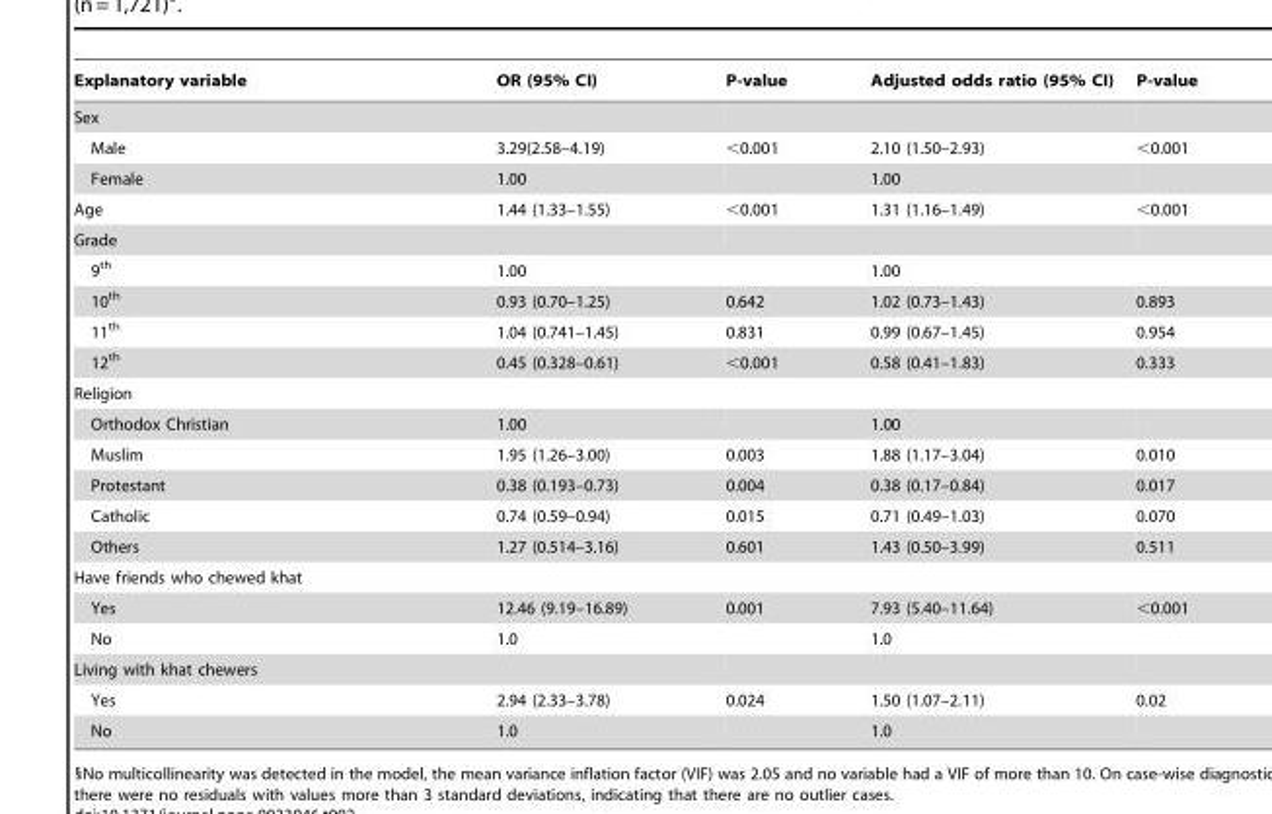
<table><thead><tr><td>Explanatory variable</td><td>OR (95% CI)</td><td>P-value</td><td>Adjusted odds ratio (95% CI)</td><td>P-value</td></tr></thead><tbody><tr><td colspan="5">Sex</td></tr><tr><td>Male</td><td>3.29(2.58–4.19)</td><td>&lt;0.001</td><td>2.10 (1.50–2.93)</td><td>&lt;0.001</td></tr><tr><td>Female</td><td>1.00</td><td></td><td>1.00</td><td></td></tr><tr><td>Age</td><td>1.44 (1.33–1.55)</td><td>&lt;0.001</td><td>1.31 (1.16–1.49)</td><td>&lt;0.001</td></tr><tr><td colspan="5">Grade</td></tr><tr><td>9<sup>th</sup></td><td>1.00</td><td></td><td>1.00</td><td></td></tr><tr><td>10<sup>th</sup></td><td>0.93 (0.70–1.25)</td><td>0.642</td><td>1.02 (0.73–1.43)</td><td>0.893</td></tr><tr><td>11<sup>th</sup></td><td>1.04 (0.741–1.45)</td><td>0.831</td><td>0.99 (0.67–1.45)</td><td>0.954</td></tr><tr><td>12<sup>th</sup></td><td>0.45 (0.328–0.61)</td><td>&lt;0.001</td><td>0.58 (0.41–1.83)</td><td>0.333</td></tr><tr><td colspan="5">Religion</td></tr><tr><td>Orthodox Christian</td><td>1.00</td><td></td><td>1.00</td><td></td></tr><tr><td>Muslim</td><td>1.95 (1.26–3.00)</td><td>0.003</td><td>1.88 (1.17–3.04)</td><td>0.010</td></tr><tr><td>Protestant</td><td>0.38 (0.193–0.73)</td><td>0.004</td><td>0.38 (0.17–0.84)</td><td>0.017</td></tr><tr><td>Catholic</td><td>0.74 (0.59–0.94)</td><td>0.015</td><td>0.71 (0.49–1.03)</td><td>0.070</td></tr><tr><td>Others</td><td>1.27 (0.514–3.16)</td><td>0.601</td><td>1.43 (0.50–3.99)</td><td>0.511</td></tr><tr><td colspan="5">Have friends who chewed khat</td></tr><tr><td>Yes</td><td>12.46 (9.19–16.89)</td><td>0.001</td><td>7.93 (5.40–11.64)</td><td>&lt;0.001</td></tr><tr><td>No</td><td>1.0</td><td></td><td>1.0</td><td></td></tr><tr><td colspan="5">Living with khat chewers</td></tr><tr><td>Yes</td><td>2.94 (2.33–3.78)</td><td>0.024</td><td>1.50 (1.07–2.11)</td><td>0.02</td></tr><tr><td>No</td><td>1.0</td><td></td><td>1.0</td><td></td></tr></tbody></table>